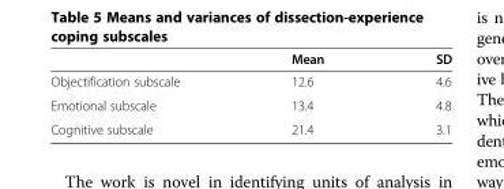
<table><thead><tr><td></td><td>Mean</td><td>SD</td></tr></thead><tbody><tr><td>Objectification subscale</td><td>12.6</td><td>4.6</td></tr><tr><td>Emotional subscale</td><td>13.4</td><td>4.8</td></tr><tr><td>Cognitive subscale</td><td>21.4</td><td>3.1</td></tr></tbody></table>